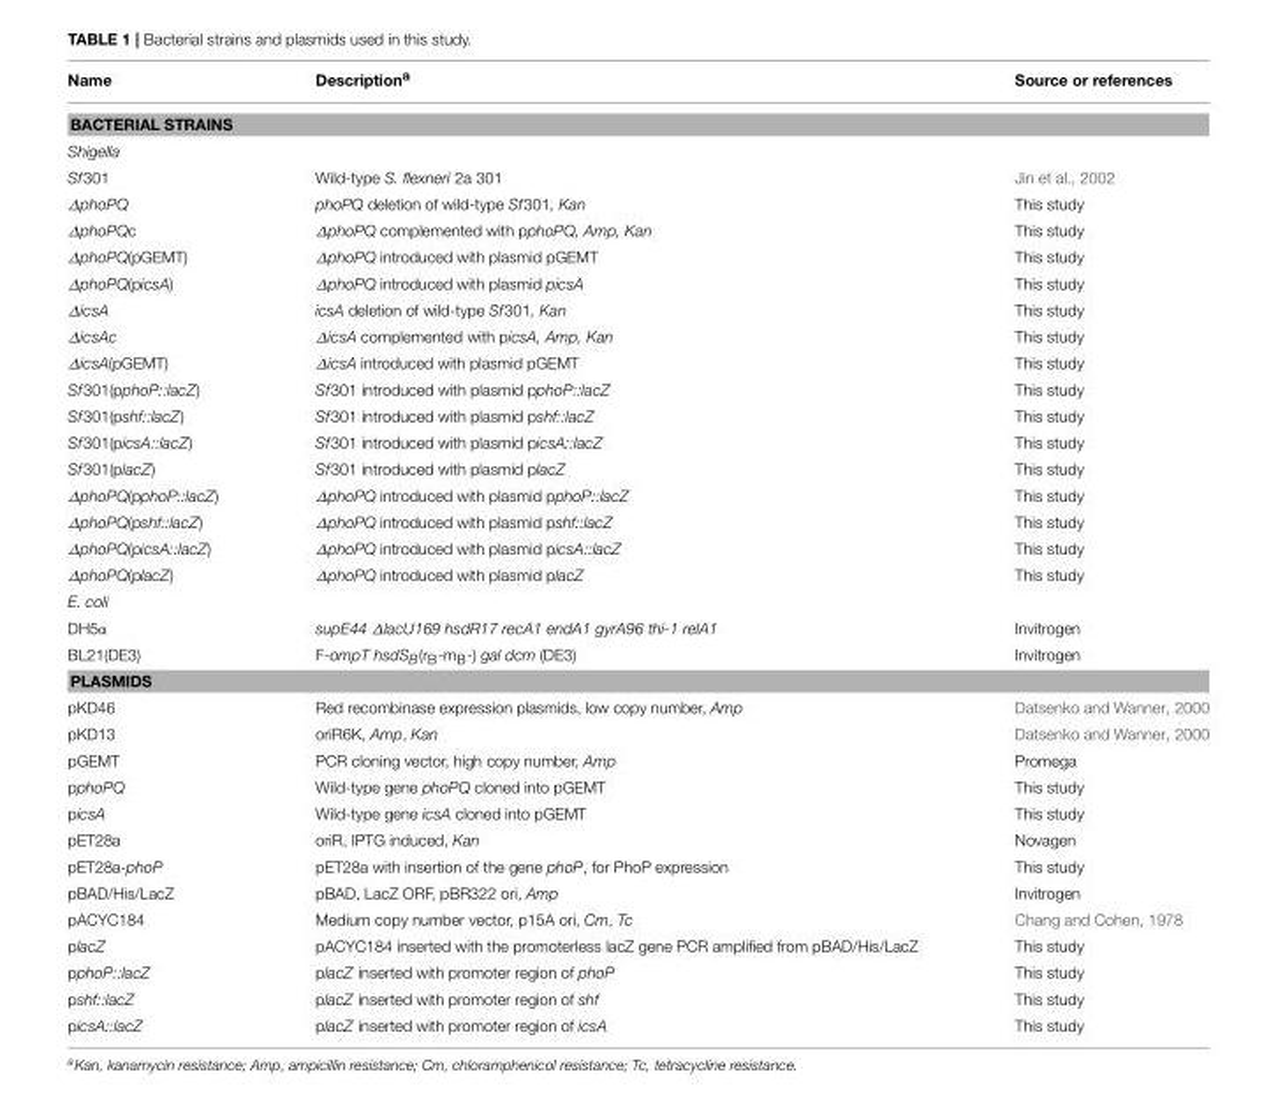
<table><thead><tr><td>Name</td><td>Description<sup>a</sup></td><td>Source or references</td></tr></thead><tbody><tr><td colspan="3">BACTERIAL STRAINS</td></tr><tr><td colspan="3">Shigella</td></tr><tr><td>Sf301</td><td>Wild-type S. flexneri 2a 301</td><td>Jin et al., 2002</td></tr><tr><td>ΔphoPQ</td><td>phoPQ deletion of wild-type Sf301, Kan</td><td>This study</td></tr><tr><td>ΔphoPQc</td><td>ΔphoPQ complemented with pphoPQ, Amp, Kan</td><td>This study</td></tr><tr><td>ΔphoPQ(pGEMT)</td><td>ΔphoPQ introduced with plasmid pGEMT</td><td>This study</td></tr><tr><td>ΔphoPQ(picsA)</td><td>ΔphoPQ introduced with plasmid picsA</td><td>This study</td></tr><tr><td>ΔicsA</td><td>icsA deletion of wild-type Sf301, Kan</td><td>This study</td></tr><tr><td>ΔicsAc</td><td>ΔicsA complemented with picsA, Amp, Kan</td><td>This study</td></tr><tr><td>ΔicsA(pGEMT)</td><td>ΔicsA introduced with plasmid pGEMT</td><td>This study</td></tr><tr><td>Sf301(pphoP::lacZ)</td><td>Sf301 introduced with plasmid pphoP::lacZ</td><td>This study</td></tr><tr><td>Sf301(pshf::lacZ)</td><td>Sf301 introduced with plasmid pshf::lacZ</td><td>This study</td></tr><tr><td>Sf301(picsA::lacZ)</td><td>Sf301 introduced with plasmid picsA::lacZ</td><td>This study</td></tr><tr><td>Sf301(placZ)</td><td>Sf301 introduced with plasmid placZ</td><td>This study</td></tr><tr><td>ΔphoPQ(pphoP::lacZ)</td><td>ΔphoPQ introduced with plasmid pphoP::lacZ</td><td>This study</td></tr><tr><td>ΔphoPQ(pshf::lacZ)</td><td>ΔphoPQ introduced with plasmid pshf::lacZ</td><td>This study</td></tr><tr><td>ΔphoPQ(picsA::lacZ)</td><td>ΔphoPQ introduced with plasmid picsA::lacZ</td><td>This study</td></tr><tr><td>ΔphoPQ(placZ)</td><td>ΔphoPQ introduced with plasmid placZ</td><td>This study</td></tr><tr><td colspan="3">E. coli</td></tr><tr><td>DH5α</td><td>supE44 ΔlacU169 hsdR17 recA1 endA1 gyrA96 thi-1 relA1</td><td>Invitrogen</td></tr><tr><td>BL21(DE3)</td><td>F-ompT hsdSB(rB-mB-) gal dcm (DE3)</td><td>Invitrogen</td></tr><tr><td colspan="3">PLASMIDS</td></tr><tr><td>pKD46</td><td>Red recombinase expression plasmids, low copy number, Amp</td><td>Datsenko and Wanner, 2000</td></tr><tr><td>pKD13</td><td>oriR6K, Amp, Kan</td><td>Datsenko and Wanner, 2000</td></tr><tr><td>pGEMT</td><td>PCR cloning vector, high copy number, Amp</td><td>Promega</td></tr><tr><td>pphoPQ</td><td>Wild-type gene phoPQ cloned into pGEMT</td><td>This study</td></tr><tr><td>picsA</td><td>Wild-type gene icsA cloned into pGEMT</td><td>This study</td></tr><tr><td>pET28a</td><td>oriR, IPTG induced, Kan</td><td>Novagen</td></tr><tr><td>pET28a-phoP</td><td>pET28a with insertion of the gene phoP, for PhoP expression</td><td>This study</td></tr><tr><td>pBAD/His/LacZ</td><td>pBAD, LacZ ORF, pBR322 ori, Amp</td><td>Invitrogen</td></tr><tr><td>pACYC184</td><td>Medium copy number vector, p15A ori, Cm, Tc</td><td>Chang and Cohen, 1978</td></tr><tr><td>placZ</td><td>pACYC184 inserted with the promoterless lacZ gene PCR amplified from pBAD/His/LacZ</td><td>This study</td></tr><tr><td>pphoP::lacZ</td><td>placZ inserted with promoter region of phoP</td><td>This study</td></tr><tr><td>pshf::lacZ</td><td>placZ inserted with promoter region of shf</td><td>This study</td></tr><tr><td>picsA::lacZ</td><td>placZ inserted with promoter region of icsA</td><td>This study</td></tr></tbody></table>